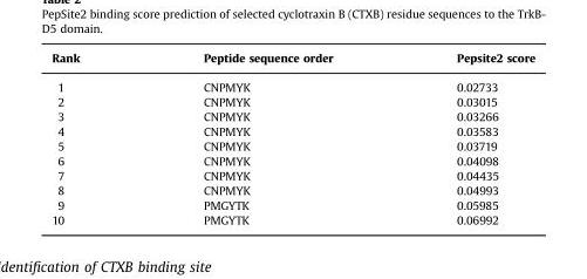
<table><thead><tr><td>Rank</td><td>Peptide sequence order</td><td>Pepsite2 score</td></tr></thead><tbody><tr><td>1</td><td>CNPMYK</td><td>0.02733</td></tr><tr><td>2</td><td>CNPMYK</td><td>0.03015</td></tr><tr><td>3</td><td>CNPMYK</td><td>0.03266</td></tr><tr><td>4</td><td>CNPMYK</td><td>0.03583</td></tr><tr><td>5</td><td>CNPMYK</td><td>0.03719</td></tr><tr><td>6</td><td>CNPMYK</td><td>0.04098</td></tr><tr><td>7</td><td>CNPMYK</td><td>0.04435</td></tr><tr><td>8</td><td>CNPMYK</td><td>0.04993</td></tr><tr><td>9</td><td>PMGYTK</td><td>0.05985</td></tr><tr><td>10</td><td>PMGYTK</td><td>0.06992</td></tr></tbody></table>